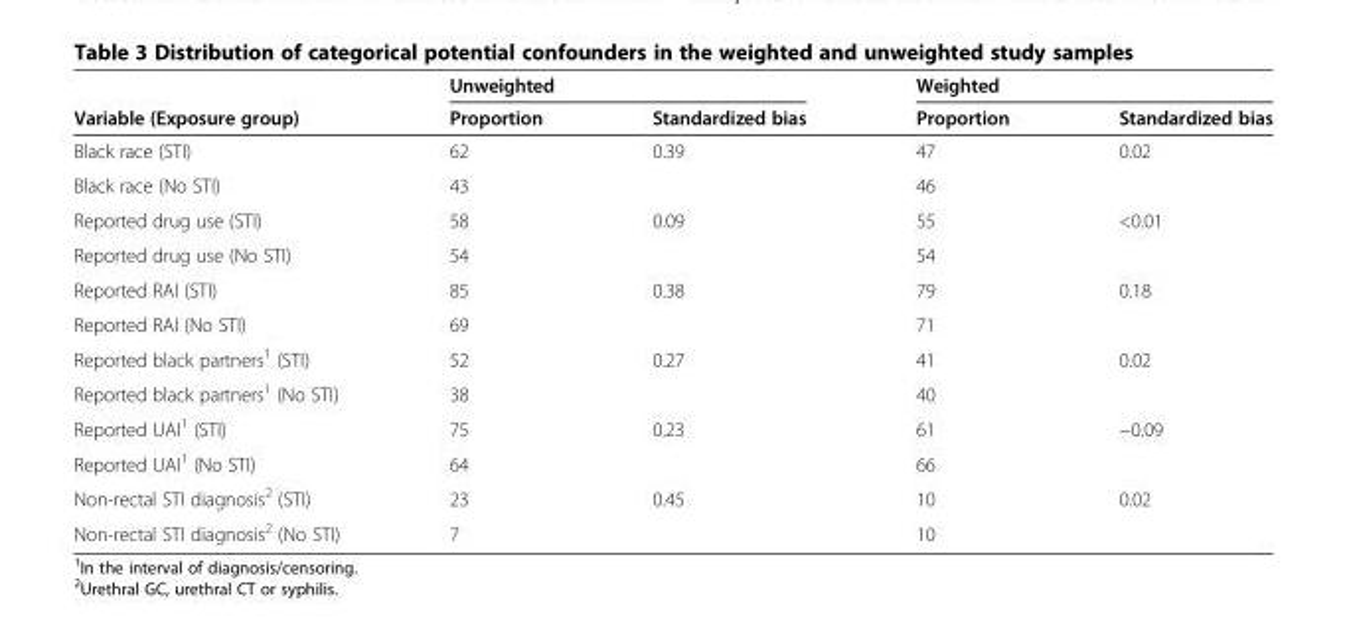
<table><thead><tr><td rowspan="2">Variable (Exposure group)</td><td colspan="2">Unweighted</td><td colspan="2">Weighted</td></tr><tr><td>Proportion</td><td>Standardized bias</td><td>Proportion</td><td>Standardized bias</td></tr></thead><tbody><tr><td>Black race (STI)</td><td>62</td><td>0.39</td><td>47</td><td>0.02</td></tr><tr><td>Black race (No STI)</td><td>43</td><td></td><td>46</td><td></td></tr><tr><td>Reported drug use (STI)</td><td>58</td><td>0.09</td><td>55</td><td>&lt;0.01</td></tr><tr><td>Reported drug use (No STI)</td><td>54</td><td></td><td>54</td><td></td></tr><tr><td>Reported RAI (STI)</td><td>85</td><td>0.38</td><td>79</td><td>0.18</td></tr><tr><td>Reported RAI (No STI)</td><td>69</td><td></td><td>71</td><td></td></tr><tr><td>Reported black partners<sup>1</sup> (STI)</td><td>52</td><td>0.27</td><td>41</td><td>0.02</td></tr><tr><td>Reported black partners<sup>1</sup> (No STI)</td><td>38</td><td></td><td>40</td><td></td></tr><tr><td>Reported UAI<sup>1</sup> (STI)</td><td>75</td><td>0.23</td><td>61</td><td>−0.09</td></tr><tr><td>Reported UAI<sup>1</sup> (No STI)</td><td>64</td><td></td><td>66</td><td></td></tr><tr><td>Non-rectal STI diagnosis<sup>2</sup> (STI)</td><td>23</td><td>0.45</td><td>10</td><td>0.02</td></tr><tr><td>Non-rectal STI diagnosis<sup>2</sup> (No STI)</td><td>7</td><td></td><td>10</td><td></td></tr></tbody></table>